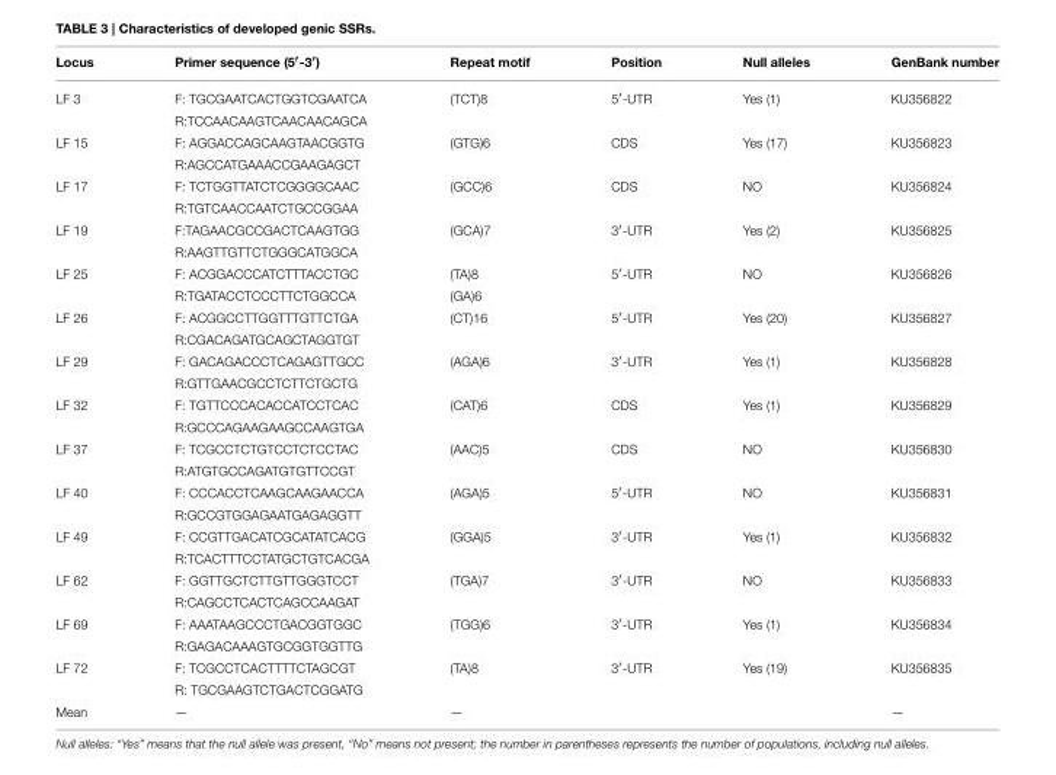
<table><thead><tr><td>Locus</td><td>Primer sequence (5′-3′)</td><td>Repeat motif</td><td>Position</td><td>Null alleles</td><td>GenBank number</td></tr></thead><tbody><tr><td rowspan="2">LF 3</td><td>F: TGCGAATCACTGGTCGAATCA</td><td>(TCT)8</td><td>5′-UTR</td><td>Yes (1)</td><td>KU356822</td></tr><tr><td>R:TCCAACAAGTCAACAACAGCA</td><td></td><td></td><td></td><td></td></tr><tr><td rowspan="2">LF 15</td><td>F: AGGACCAGCAAGTAACGGTG</td><td>(GTG)6</td><td>CDS</td><td>Yes (17)</td><td>KU356823</td></tr><tr><td>R:AGCCATGAAACCGAAGAGCT</td><td></td><td></td><td></td><td></td></tr><tr><td rowspan="2">LF 17</td><td>F: TCTGGTTATCTCGGGGCAAC</td><td>(GCC)6</td><td>CDS</td><td>NO</td><td>KU356824</td></tr><tr><td>R:TGTCAACCAATCTGCCGGAA</td><td></td><td></td><td></td><td></td></tr><tr><td rowspan="2">LF 19</td><td>F:TAGAACGCCGACTCAAGTGG</td><td>(GCA)7</td><td>3′-UTR</td><td>Yes (2)</td><td>KU356825</td></tr><tr><td>R:AAGTTGTTCTGGGCATGGCA</td><td></td><td></td><td></td><td></td></tr><tr><td rowspan="2">LF 25</td><td>F: ACGGACCCATCTTTACCTGC</td><td>(TA)8</td><td>5′-UTR</td><td>NO</td><td>KU356826</td></tr><tr><td>R:TGATACCTCCCTTCTGGCCA</td><td>(GA)6</td><td></td><td></td><td></td></tr><tr><td rowspan="2">LF 26</td><td>F: ACGGCCTTGGTTTGTTCTGA</td><td>(CT)16</td><td>5′-UTR</td><td>Yes (20)</td><td>KU356827</td></tr><tr><td>R:CGACAGATGCAGCTAGGTGT</td><td></td><td></td><td></td><td></td></tr><tr><td rowspan="2">LF 29</td><td>F: GACAGACCCTCAGAGTTGCC</td><td>(AGA)6</td><td>3′-UTR</td><td>Yes (1)</td><td>KU356828</td></tr><tr><td>R:GTTGAACGCCTCTTCTGCTG</td><td></td><td></td><td></td><td></td></tr><tr><td rowspan="2">LF 32</td><td>F: TGTTCCCACACCATCCTCAC</td><td>(CAT)6</td><td>CDS</td><td>Yes (1)</td><td>KU356829</td></tr><tr><td>R:GCCCAGAAGAAGCCAAGTGA</td><td></td><td></td><td></td><td></td></tr><tr><td rowspan="2">LF 37</td><td>F: TCGCCTCTGTCCTCTCCTAC</td><td>(AAC)5</td><td>CDS</td><td>NO</td><td>KU356830</td></tr><tr><td>R:ATGTGCCAGATGTGTTCCGT</td><td></td><td></td><td></td><td></td></tr><tr><td rowspan="2">LF 40</td><td>F: CCCACCTCAAGCAAGAACCA</td><td>(AGA)5</td><td>5′-UTR</td><td>NO</td><td>KU356831</td></tr><tr><td>R:GCCGTGGAGAATGAGAGGTT</td><td></td><td></td><td></td><td></td></tr><tr><td rowspan="2">LF 49</td><td>F: CCGTTGACATCGCATATCACG</td><td>(GGA)5</td><td>3′-UTR</td><td>Yes (1)</td><td>KU356832</td></tr><tr><td>R:TCACTTTCCTATGCTGTCACGA</td><td></td><td></td><td></td><td></td></tr><tr><td rowspan="2">LF 62</td><td>F: GGTTGCTCTTGTTGGGTCCT</td><td>(TGA)7</td><td>3′-UTR</td><td>NO</td><td>KU356833</td></tr><tr><td>R:CAGCCTCACTCAGCCAAGAT</td><td></td><td></td><td></td><td></td></tr><tr><td rowspan="2">LF 69</td><td>F: AAATAAGCCCTGACGGTGGC</td><td>(TGG)6</td><td>3′-UTR</td><td>Yes (1)</td><td>KU356834</td></tr><tr><td>R:GAGACAAAGTGCGGTGGTTG</td><td></td><td></td><td></td><td></td></tr><tr><td rowspan="2">LF 72</td><td>F: TCGCCTCACTTTTCTAGCGT</td><td>(TA)8</td><td>3′-UTR</td><td>Yes (19)</td><td>KU356835</td></tr><tr><td>R: TGCGAAGTCTGACTCGGATG</td><td></td><td></td><td></td><td></td></tr><tr><td>Mean</td><td>—</td><td>—</td><td></td><td></td><td>—</td></tr></tbody></table>